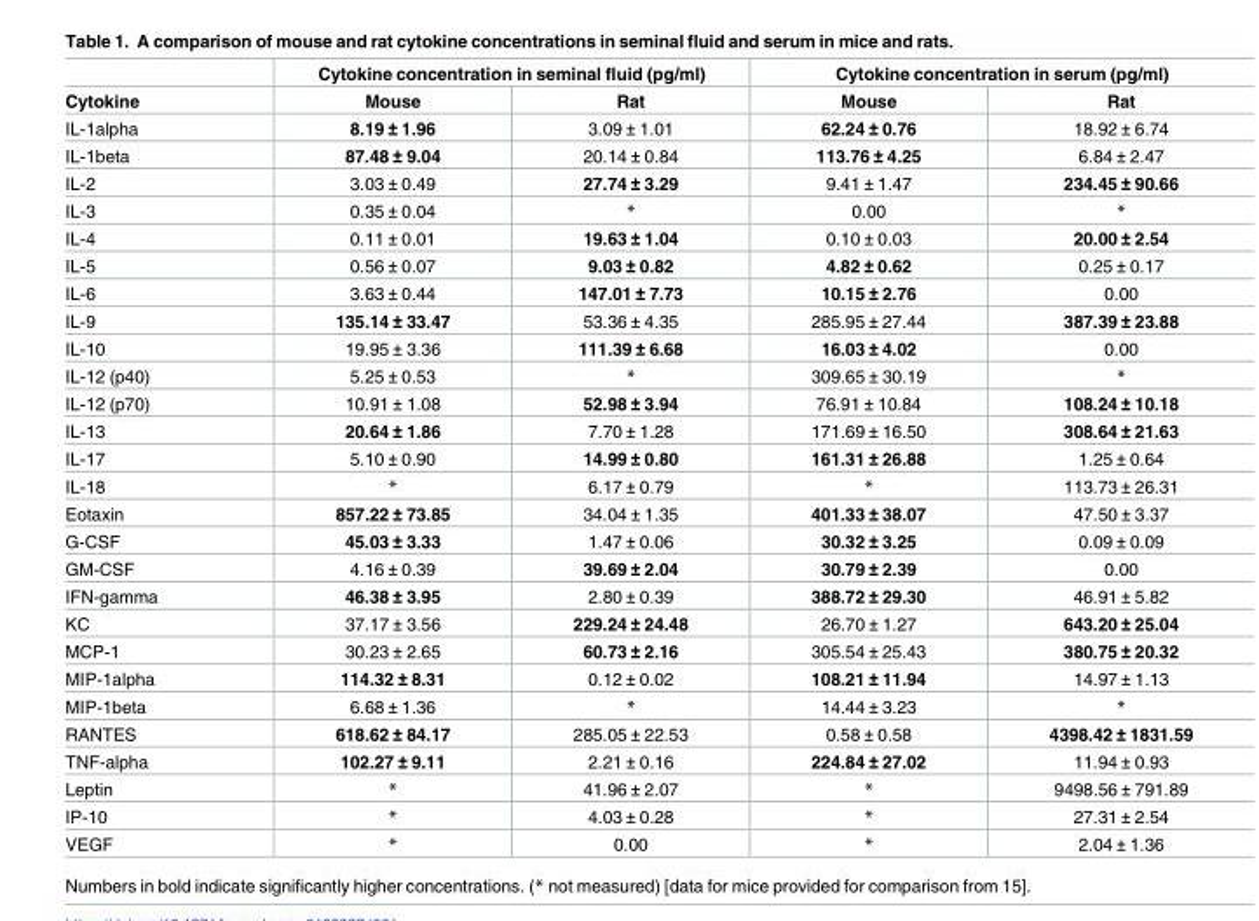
<table><thead><tr><td rowspan="2">Cytokine</td><td colspan="2">Cytokine concentration in seminal fluid (pg/ml)</td><td colspan="2">Cytokine concentration in serum (pg/ml)</td></tr><tr><td>Mouse</td><td>Rat</td><td>Mouse</td><td>Rat</td></tr></thead><tbody><tr><td>IL-1alpha</td><td>8.19 ± 1.96</td><td>3.09 ± 1.01</td><td>62.24 ± 0.76</td><td>18.92 ± 6.74</td></tr><tr><td>IL-1beta</td><td>87.48 ± 9.04</td><td>20.14 ± 0.84</td><td>113.76 ± 4.25</td><td>6.84 ± 2.47</td></tr><tr><td>IL-2</td><td>3.03 ± 0.49</td><td>27.74 ± 3.29</td><td>9.41 ± 1.47</td><td>234.45 ± 90.66</td></tr><tr><td>IL-3</td><td>0.35 ± 0.04</td><td>*</td><td>0.00</td><td>*</td></tr><tr><td>IL-4</td><td>0.11 ± 0.01</td><td>19.63 ± 1.04</td><td>0.10 ± 0.03</td><td>20.00 ± 2.54</td></tr><tr><td>IL-5</td><td>0.56 ± 0.07</td><td>9.03 ± 0.82</td><td>4.82 ± 0.62</td><td>0.25 ± 0.17</td></tr><tr><td>IL-6</td><td>3.63 ± 0.44</td><td>147.01 ± 7.73</td><td>10.15 ± 2.76</td><td>0.00</td></tr><tr><td>IL-9</td><td>135.14 ± 33.47</td><td>53.36 ± 4.35</td><td>285.95 ± 27.44</td><td>387.39 ± 23.88</td></tr><tr><td>IL-10</td><td>19.95 ± 3.36</td><td>111.39 ± 6.68</td><td>16.03 ± 4.02</td><td>0.00</td></tr><tr><td>IL-12 (p40)</td><td>5.25 ± 0.53</td><td>*</td><td>309.65 ± 30.19</td><td>*</td></tr><tr><td>IL-12 (p70)</td><td>10.91 ± 1.08</td><td>52.98 ± 3.94</td><td>76.91 ± 10.84</td><td>108.24 ± 10.18</td></tr><tr><td>IL-13</td><td>20.64 ± 1.86</td><td>7.70 ± 1.28</td><td>171.69 ± 16.50</td><td>308.64 ± 21.63</td></tr><tr><td>IL-17</td><td>5.10 ± 0.90</td><td>14.99 ± 0.80</td><td>161.31 ± 26.88</td><td>1.25 ± 0.64</td></tr><tr><td>IL-18</td><td>*</td><td>6.17 ± 0.79</td><td>*</td><td>113.73 ± 26.31</td></tr><tr><td>Eotaxin</td><td>857.22 ± 73.85</td><td>34.04 ± 1.35</td><td>401.33 ± 38.07</td><td>47.50 ± 3.37</td></tr><tr><td>G-CSF</td><td>45.03 ± 3.33</td><td>1.47 ± 0.06</td><td>30.32 ± 3.25</td><td>0.09 ± 0.09</td></tr><tr><td>GM-CSF</td><td>4.16 ± 0.39</td><td>39.69 ± 2.04</td><td>30.79 ± 2.39</td><td>0.00</td></tr><tr><td>IFN-gamma</td><td>46.38 ± 3.95</td><td>2.80 ± 0.39</td><td>388.72 ± 29.30</td><td>46.91 ± 5.82</td></tr><tr><td>KC</td><td>37.17 ± 3.56</td><td>229.24 ± 24.48</td><td>26.70 ± 1.27</td><td>643.20 ± 25.04</td></tr><tr><td>MCP-1</td><td>30.23 ± 2.65</td><td>60.73 ± 2.16</td><td>305.54 ± 25.43</td><td>380.75 ± 20.32</td></tr><tr><td>MIP-1alpha</td><td>114.32 ± 8.31</td><td>0.12 ± 0.02</td><td>108.21 ± 11.94</td><td>14.97 ± 1.13</td></tr><tr><td>MIP-1beta</td><td>6.68 ± 1.36</td><td>*</td><td>14.44 ± 3.23</td><td>*</td></tr><tr><td>RANTES</td><td>618.62 ± 84.17</td><td>285.05 ± 22.53</td><td>0.58 ± 0.58</td><td>4398.42 ± 1831.59</td></tr><tr><td>TNF-alpha</td><td>102.27 ± 9.11</td><td>2.21 ± 0.16</td><td>224.84 ± 27.02</td><td>11.94 ± 0.93</td></tr><tr><td>Leptin</td><td>*</td><td>41.96 ± 2.07</td><td>*</td><td>9498.56 ± 791.89</td></tr><tr><td>IP-10</td><td>*</td><td>4.03 ± 0.28</td><td>*</td><td>27.31 ± 2.54</td></tr><tr><td>VEGF</td><td>*</td><td>0.00</td><td>*</td><td>2.04 ± 1.36</td></tr></tbody></table>